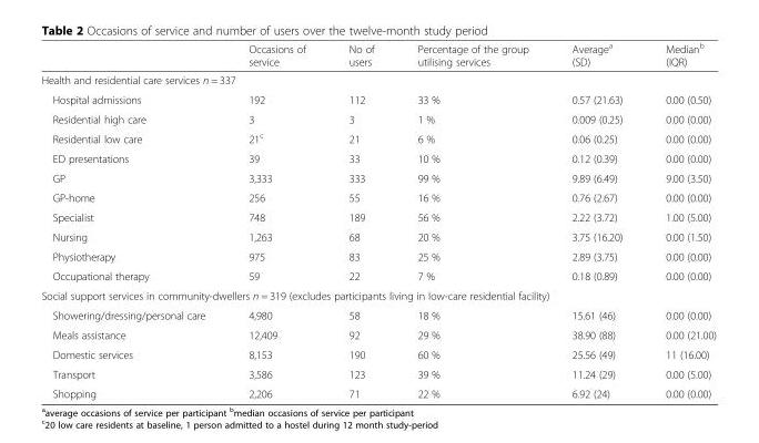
<table><thead><tr><td></td><td>Occasions of service</td><td>No of users</td><td>Percentage of the group utilising services</td><td>Average<sup>a</sup> (SD)</td><td>Median<sup>b</sup> (IQR)</td></tr></thead><tbody><tr><td colspan="6">Health and residential care services n = 337</td></tr><tr><td>Hospital admissions</td><td>192</td><td>112</td><td>33 %</td><td>0.57 (21.63)</td><td>0.00 (0.50)</td></tr><tr><td>Residential high care</td><td>3</td><td>3</td><td>1 %</td><td>0.009 (0.25)</td><td>0.00 (0.00)</td></tr><tr><td>Residential low care</td><td>21<sup>c</sup></td><td>21</td><td>6 %</td><td>0.06 (0.25)</td><td>0.00 (0.00)</td></tr><tr><td>ED presentations</td><td>39</td><td>33</td><td>10 %</td><td>0.12 (0.39)</td><td>0.00 (0.00)</td></tr><tr><td>GP</td><td>3,333</td><td>333</td><td>99 %</td><td>9.89 (6.49)</td><td>9.00 (3.50)</td></tr><tr><td>GP-home</td><td>256</td><td>55</td><td>16 %</td><td>0.76 (2.67)</td><td>0.00 (0.00)</td></tr><tr><td>Specialist</td><td>748</td><td>189</td><td>56 %</td><td>2.22 (3.72)</td><td>1.00 (5.00)</td></tr><tr><td>Nursing</td><td>1,263</td><td>68</td><td>20 %</td><td>3.75 (16.20)</td><td>0.00 (1.50)</td></tr><tr><td>Physiotherapy</td><td>975</td><td>83</td><td>25 %</td><td>2.89 (3.75)</td><td>0.00 (0.00)</td></tr><tr><td>Occupational therapy</td><td>59</td><td>22</td><td>7 %</td><td>0.18 (0.89)</td><td>0.00 (0.00)</td></tr><tr><td colspan="6">Social support services in community-dwellers n = 319 (excludes participants living in low-care residential facility)</td></tr><tr><td>Showering/dressing/personal care</td><td>4,980</td><td>58</td><td>18 %</td><td>15.61 (46)</td><td>0.00 (0.00)</td></tr><tr><td>Meals assistance</td><td>12,409</td><td>92</td><td>29 %</td><td>38.90 (88)</td><td>0.00 (21.00)</td></tr><tr><td>Domestic services</td><td>8,153</td><td>190</td><td>60 %</td><td>25.56 (49)</td><td>11 (16.00)</td></tr><tr><td>Transport</td><td>3,586</td><td>123</td><td>39 %</td><td>11.24 (29)</td><td>0.00 (5.00)</td></tr><tr><td>Shopping</td><td>2,206</td><td>71</td><td>22 %</td><td>6.92 (24)</td><td>0.00 (0.00)</td></tr></tbody></table>